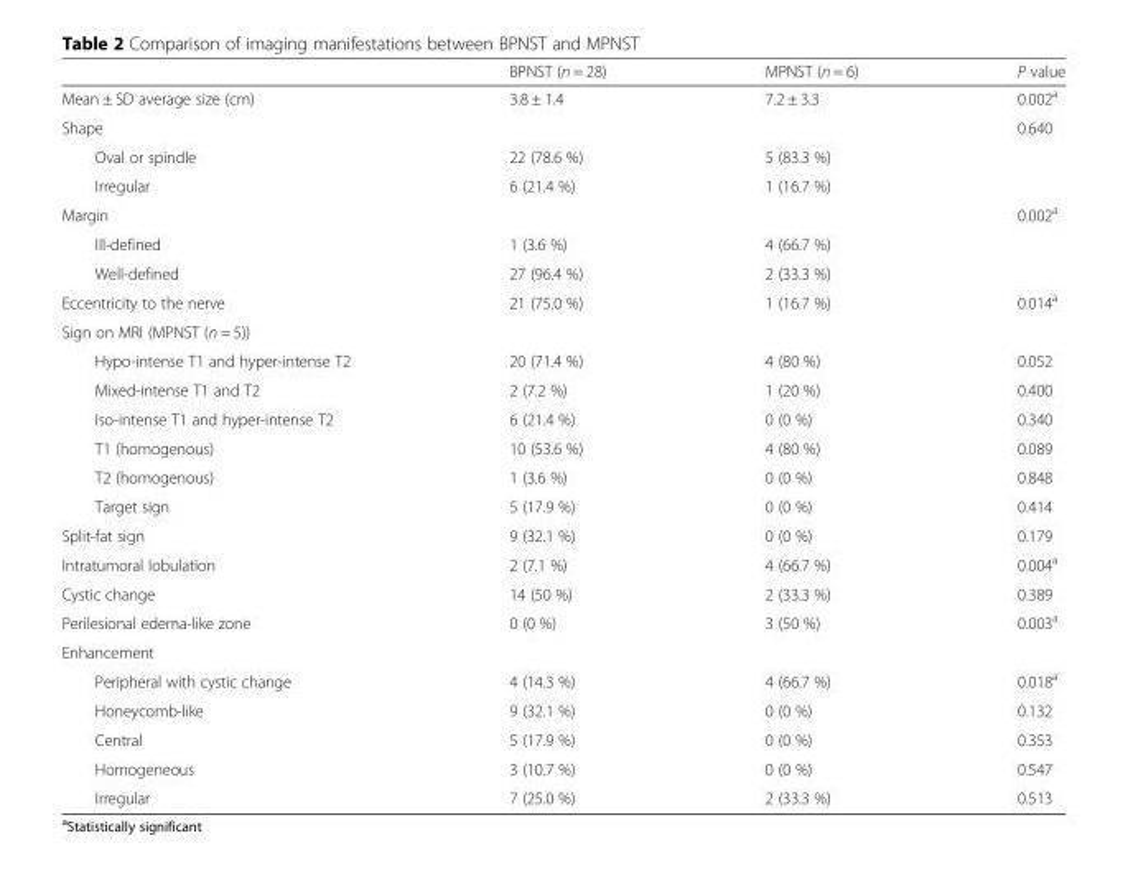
<table><thead><tr><td></td><td>BPNST (n = 28)</td><td>MPNST (n = 6)</td><td>P value</td></tr></thead><tbody><tr><td>Mean ± SD average size (cm)</td><td>3.8 ± 1.4</td><td>7.2 ± 3.3</td><td>0.002<sup>a</sup></td></tr><tr><td>Shape</td><td></td><td></td><td>0.640</td></tr><tr><td>Oval or spindle</td><td>22 (78.6 %)</td><td>5 (83.3 %)</td><td></td></tr><tr><td>Irregular</td><td>6 (21.4 %)</td><td>1 (16.7 %)</td><td></td></tr><tr><td>Margin</td><td></td><td></td><td>0.002<sup>a</sup></td></tr><tr><td>Ill-defined</td><td>1 (3.6 %)</td><td>4 (66.7 %)</td><td></td></tr><tr><td>Well-defined</td><td>27 (96.4 %)</td><td>2 (33.3 %)</td><td></td></tr><tr><td>Eccentricity to the nerve</td><td>21 (75.0 %)</td><td>1 (16.7 %)</td><td>0.014<sup>a</sup></td></tr><tr><td colspan="4">Sign on MRI (MPNST (n = 5))</td></tr><tr><td>Hypo-intense T1 and hyper-intense T2</td><td>20 (71.4 %)</td><td>4 (80 %)</td><td>0.052</td></tr><tr><td>Mixed-intense T1 and T2</td><td>2 (7.2 %)</td><td>1 (20 %)</td><td>0.400</td></tr><tr><td>Iso-intense T1 and hyper-intense T2</td><td>6 (21.4 %)</td><td>0 (0 %)</td><td>0.340</td></tr><tr><td>T1 (homogenous)</td><td>10 (53.6 %)</td><td>4 (80 %)</td><td>0.089</td></tr><tr><td>T2 (homogenous)</td><td>1 (3.6 %)</td><td>0 (0 %)</td><td>0.848</td></tr><tr><td>Target sign</td><td>5 (17.9 %)</td><td>0 (0 %)</td><td>0.414</td></tr><tr><td>Split-fat sign</td><td>9 (32.1 %)</td><td>0 (0 %)</td><td>0.179</td></tr><tr><td>Intratumoral lobulation</td><td>2 (7.1 %)</td><td>4 (66.7 %)</td><td>0.004<sup>a</sup></td></tr><tr><td>Cystic change</td><td>14 (50 %)</td><td>2 (33.3 %)</td><td>0.389</td></tr><tr><td>Perilesional edema-like zone</td><td>0 (0 %)</td><td>3 (50 %)</td><td>0.003<sup>a</sup></td></tr><tr><td colspan="4">Enhancement</td></tr><tr><td>Peripheral with cystic change</td><td>4 (14.3 %)</td><td>4 (66.7 %)</td><td>0.018<sup>a</sup></td></tr><tr><td>Honeycomb-like</td><td>9 (32.1 %)</td><td>0 (0 %)</td><td>0.132</td></tr><tr><td>Central</td><td>5 (17.9 %)</td><td>0 (0 %)</td><td>0.353</td></tr><tr><td>Homogeneous</td><td>3 (10.7 %)</td><td>0 (0 %)</td><td>0.547</td></tr><tr><td>Irregular</td><td>7 (25.0 %)</td><td>2 (33.3 %)</td><td>0.513</td></tr></tbody></table>